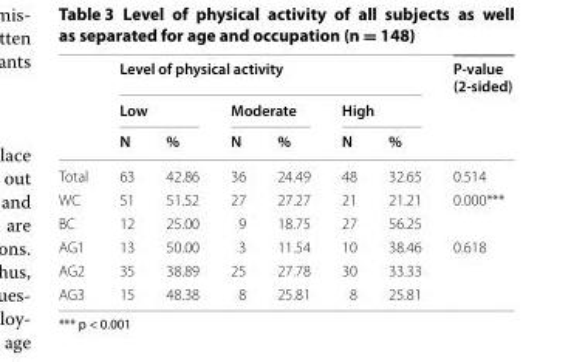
<table><thead><tr><td rowspan="3"></td><td colspan="6">Level of physical activity</td><td rowspan="3">P-value (2-sided)</td></tr><tr><td colspan="2">Low</td><td colspan="2">Moderate</td><td colspan="2">High</td></tr><tr><td>N</td><td>%</td><td>N</td><td>%</td><td>N</td><td>%</td></tr></thead><tbody><tr><td>Total</td><td>63</td><td>42.86</td><td>36</td><td>24.49</td><td>48</td><td>32.65</td><td>0.514</td></tr><tr><td>WC</td><td>51</td><td>51.52</td><td>27</td><td>27.27</td><td>21</td><td>21.21</td><td rowspan="2">0.000***</td></tr><tr><td>BC</td><td>12</td><td>25.00</td><td>9</td><td>18.75</td><td>27</td><td>56.25</td></tr><tr><td>AG1</td><td>13</td><td>50.00</td><td>3</td><td>11.54</td><td>10</td><td>38.46</td><td rowspan="3">0.618</td></tr><tr><td>AG2</td><td>35</td><td>38.89</td><td>25</td><td>27.78</td><td>30</td><td>33.33</td></tr><tr><td>AG3</td><td>15</td><td>48.38</td><td>8</td><td>25.81</td><td>8</td><td>25.81</td></tr></tbody></table>